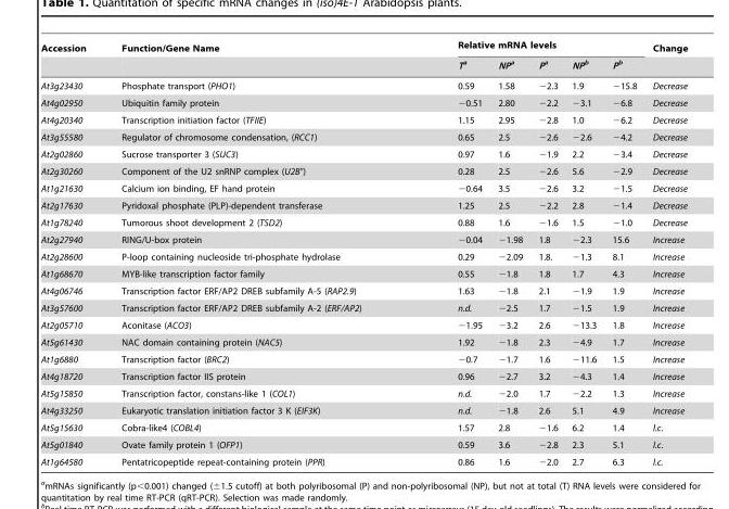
<table><thead><tr><td rowspan="2">Accession</td><td rowspan="2">Function/Gene Name</td><td colspan="5">Relative mRNA levels</td><td rowspan="2">Change</td></tr><tr><td>Ta</td><td>NPa</td><td>Pa</td><td>NPb</td><td>Pb</td></tr></thead><tbody><tr><td>At3g23430</td><td>Phosphate transport (PHO1)</td><td>0.59</td><td>1.58</td><td>−2.3</td><td>1.9</td><td>−15.8</td><td>Decrease</td></tr><tr><td>At4g02950</td><td>Ubiquitin family protein</td><td>−0.51</td><td>2.80</td><td>−2.2</td><td>−3.1</td><td>−6.8</td><td>Decrease</td></tr><tr><td>At4g20340</td><td>Transcription initiation factor (TFIIE)</td><td>1.15</td><td>2.95</td><td>−2.8</td><td>1.0</td><td>−6.2</td><td>Decrease</td></tr><tr><td>At3g55580</td><td>Regulator of chromosome condensation, (RCC1)</td><td>0.65</td><td>2.5</td><td>−2.6</td><td>−2.6</td><td>−4.2</td><td>Decrease</td></tr><tr><td>At2g02860</td><td>Sucrose transporter 3 (SUC3)</td><td>0.97</td><td>1.6</td><td>−1.9</td><td>2.2</td><td>−3.4</td><td>Decrease</td></tr><tr><td>At2g30260</td><td>Component of the U2 snRNP complex (U2B″)</td><td>0.28</td><td>2.5</td><td>−2.6</td><td>5.6</td><td>−2.9</td><td>Decrease</td></tr><tr><td>At1g21630</td><td>Calcium ion binding, EF hand protein</td><td>−0.64</td><td>3.5</td><td>−2.6</td><td>3.2</td><td>−1.5</td><td>Decrease</td></tr><tr><td>At2g17630</td><td>Pyridoxal phosphate (PLP)-dependent transferase</td><td>1.25</td><td>2.5</td><td>−2.2</td><td>2.8</td><td>−1.4</td><td>Decrease</td></tr><tr><td>At1g78240</td><td>Tumorous shoot development 2 (TSD2)</td><td>0.88</td><td>1.6</td><td>−1.6</td><td>1.5</td><td>−1.0</td><td>Decrease</td></tr><tr><td>At2g27940</td><td>RING/U-box protein</td><td>−0.04</td><td>−1.98</td><td>1.8</td><td>−2.3</td><td>15.6</td><td>Increase</td></tr><tr><td>At2g28600</td><td>P-loop containing nucleoside tri-phosphate hydrolase</td><td>0.29</td><td>−2.09</td><td>1.8.</td><td>−1.3</td><td>8.1</td><td>Increase</td></tr><tr><td>At1g68670</td><td>MYB-like transcription factor family</td><td>0.55</td><td>−1.8</td><td>1.8</td><td>1.7</td><td>4.3</td><td>Increase</td></tr><tr><td>At4g06746</td><td>Transcription factor ERF/AP2 DREB subfamily A-5 (RAP2.9)</td><td>1.63</td><td>−1.8</td><td>2.1</td><td>−1.9</td><td>1.9</td><td>Increase</td></tr><tr><td>At3g57600</td><td>Transcription factor ERF/AP2 DREB subfamily A-2 (ERF/AP2)</td><td>n.d.</td><td>−2.5</td><td>1.7</td><td>−1.5</td><td>1.9</td><td>Increase</td></tr><tr><td>At2g05710</td><td>Aconitase (ACO3)</td><td>−1.95</td><td>−3.2</td><td>2.6</td><td>−13.3</td><td>1.8</td><td>Increase</td></tr><tr><td>At5g61430</td><td>NAC domain containing protein (NAC5)</td><td>1.92</td><td>−1.8</td><td>2.3</td><td>−4.9</td><td>1.7</td><td>Increase</td></tr><tr><td>At1g6880</td><td>Transcription factor (BRC2)</td><td>−0.7</td><td>−1.7</td><td>1.6</td><td>−11.6</td><td>1.5</td><td>Increase</td></tr><tr><td>At4g18720</td><td>Transcription factor IIS protein</td><td>0.96</td><td>−2.7</td><td>3.2</td><td>−4.3</td><td>1.4</td><td>Increase</td></tr><tr><td>At5g15850</td><td>Transcription factor, constans-like 1 (COL1)</td><td>n.d.</td><td>−2.0</td><td>1.7</td><td>−2.2</td><td>1.3</td><td>Increase</td></tr><tr><td>At4g33250</td><td>Eukaryotic translation initiation factor 3 K (EIF3K)</td><td>n.d.</td><td>−1.8</td><td>2.6</td><td>5.1</td><td>4.9</td><td>Increase</td></tr><tr><td>At5g15630</td><td>Cobra-like4 (COBL4)</td><td>1.57</td><td>2.8</td><td>−1.6</td><td>6.2</td><td>1.4</td><td>l.c.</td></tr><tr><td>At5g01840</td><td>Ovate family protein 1 (OFP1)</td><td>0.59</td><td>3.6</td><td>−2.8</td><td>2.3</td><td>5.1</td><td>l.c.</td></tr><tr><td>At1g64580</td><td>Pentatricopeptide repeat-containing protein (PPR)</td><td>0.86</td><td>1.6</td><td>−2.0</td><td>2.7</td><td>6.3</td><td>l.c.</td></tr></tbody></table>